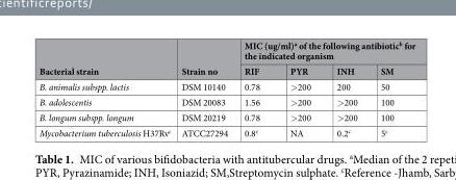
<table><thead><tr><td rowspan="2">Bacterial strain</td><td rowspan="2">Strain no</td><td colspan="4">MIC (ug/ml)<sup>a</sup> of the following antibiotic<sup>b</sup> for the indicated organism</td></tr><tr><td>RIF</td><td>PYR</td><td>INH</td><td>SM</td></tr></thead><tbody><tr><td>B. animalis subspp. lactis</td><td>DSM 10140</td><td>0.78</td><td>&gt;200</td><td>200</td><td>50</td></tr><tr><td>B. adolescentis</td><td>DSM 20083</td><td>1.56</td><td>&gt;200</td><td>&gt;200</td><td>100</td></tr><tr><td>B. longum subspp. longum</td><td>DSM 20219</td><td>0.78</td><td>&gt;200</td><td>&gt;200</td><td>100</td></tr><tr><td>Mycobacterium tuberculosis H37Rv<sup>c</sup></td><td>ATCC27294</td><td>0.8<sup>c</sup></td><td>NA</td><td>0.2<sup>c</sup></td><td>5<sup>c</sup></td></tr></tbody></table>